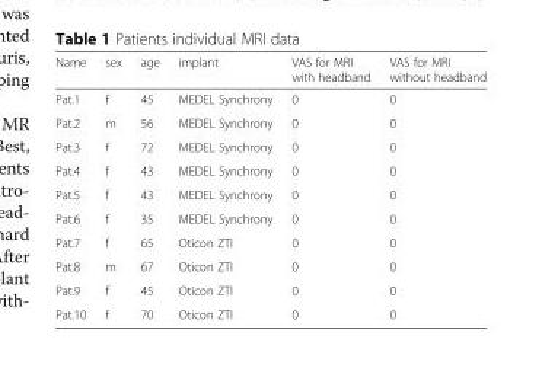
<table><thead><tr><td>Name</td><td>sex</td><td>age</td><td>implant</td><td>VAS for MRI with headband</td><td>VAS for MRI without headband</td></tr></thead><tbody><tr><td>Pat.1</td><td>f</td><td>45</td><td>MEDEL Synchrony</td><td>0</td><td>0</td></tr><tr><td>Pat.2</td><td>m</td><td>56</td><td>MEDEL Synchrony</td><td>0</td><td>0</td></tr><tr><td>Pat.3</td><td>f</td><td>72</td><td>MEDEL Synchrony</td><td>0</td><td>0</td></tr><tr><td>Pat.4</td><td>f</td><td>43</td><td>MEDEL Synchrony</td><td>0</td><td>0</td></tr><tr><td>Pat.5</td><td>f</td><td>43</td><td>MEDEL Synchrony</td><td>0</td><td>0</td></tr><tr><td>Pat.6</td><td>f</td><td>35</td><td>MEDEL Synchrony</td><td>0</td><td>0</td></tr><tr><td>Pat.7</td><td>f</td><td>65</td><td>Oticon ZTI</td><td>0</td><td>0</td></tr><tr><td>Pat.8</td><td>m</td><td>67</td><td>Oticon ZTI</td><td>0</td><td>0</td></tr><tr><td>Pat.9</td><td>f</td><td>45</td><td>Oticon ZTI</td><td>0</td><td>0</td></tr><tr><td>Pat.10</td><td>f</td><td>70</td><td>Oticon ZTI</td><td>0</td><td>0</td></tr></tbody></table>